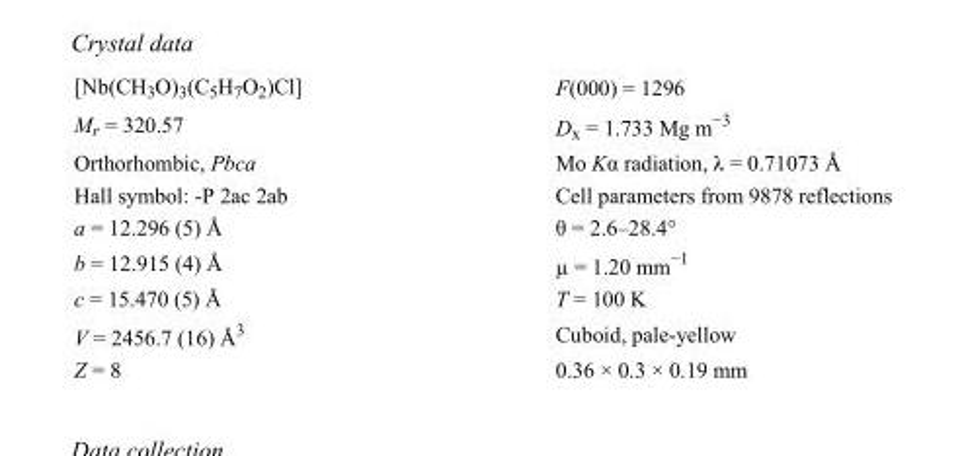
<table><tbody><tr><td>[Nb(CH<sub>3</sub>O)<sub>3</sub>(C<sub>5</sub>H<sub>7</sub>O<sub>2</sub>)Cl]</td><td>F(000) = 1296</td></tr><tr><td>M<sub>r</sub> = 320.57</td><td>D<sub>x</sub> = 1.733 Mg m<sup>−3</sup></td></tr><tr><td>Orthorhombic, Pbca</td><td>Mo Kα radiation, λ = 0.71073 Å</td></tr><tr><td>Hall symbol: -P 2ac 2ab</td><td>Cell parameters from 9878 reflections</td></tr><tr><td>a = 12.296 (5) Å</td><td>θ = 2.6–28.4°</td></tr><tr><td>b = 12.915 (4) Å</td><td>µ = 1.20 mm<sup>−1</sup></td></tr><tr><td>c = 15.470 (5) Å</td><td>T = 100 K</td></tr><tr><td>V = 2456.7 (16) Å<sup>3</sup></td><td>Cuboid, pale-yellow</td></tr><tr><td>Z = 8</td><td>0.36 × 0.3 × 0.19 mm</td></tr></tbody></table>